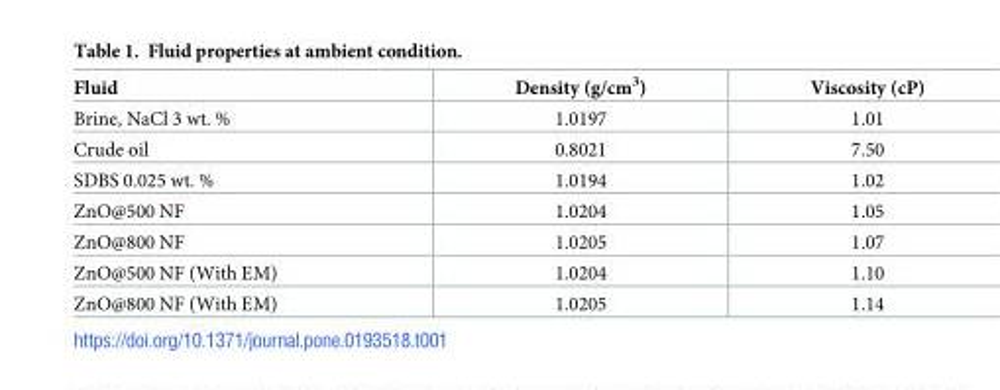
<table><thead><tr><td>Fluid</td><td>Density (g/cm<sup>3</sup>)</td><td>Viscosity (cP)</td></tr></thead><tbody><tr><td>Brine, NaCl 3 wt. %</td><td>1.0197</td><td>1.01</td></tr><tr><td>Crude oil</td><td>0.8021</td><td>7.50</td></tr><tr><td>SDBS 0.025 wt. %</td><td>1.0194</td><td>1.02</td></tr><tr><td>ZnO@500 NF</td><td>1.0204</td><td>1.05</td></tr><tr><td>ZnO@800 NF</td><td>1.0205</td><td>1.07</td></tr><tr><td>ZnO@500 NF (With EM)</td><td>1.0204</td><td>1.10</td></tr><tr><td>ZnO@800 NF (With EM)</td><td>1.0205</td><td>1.14</td></tr></tbody></table>